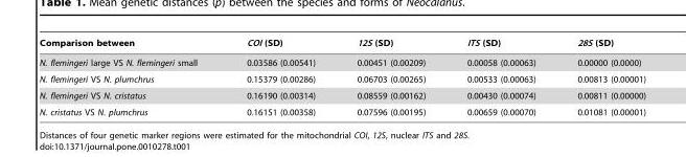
<table><thead><tr><td>Comparison between</td><td>COI (SD)</td><td>12S (SD)</td><td>ITS (SD)</td><td>28S (SD)</td></tr></thead><tbody><tr><td>N. flemingeri large VS N. flemingeri small</td><td>0.03586 (0.00541)</td><td>0.00451 (0.00209)</td><td>0.00058 (0.00063)</td><td>0.00000 (0.0000)</td></tr><tr><td>N. flemingeri VS N. plumchrus</td><td>0.15379 (0.00286)</td><td>0.06703 (0.00265)</td><td>0.00533 (0.00063)</td><td>0.00813 (0.00001)</td></tr><tr><td>N. flemingeri VS N. cristatus</td><td>0.16190 (0.00314)</td><td>0.08559 (0.00162)</td><td>0.00430 (0.00074)</td><td>0.00811 (0.00000)</td></tr><tr><td>N. cristatus VS N. plumchrus</td><td>0.16151 (0.00358)</td><td>0.07596 (0.00195)</td><td>0.00659 (0.00070)</td><td>0.01081 (0.00001)</td></tr></tbody></table>